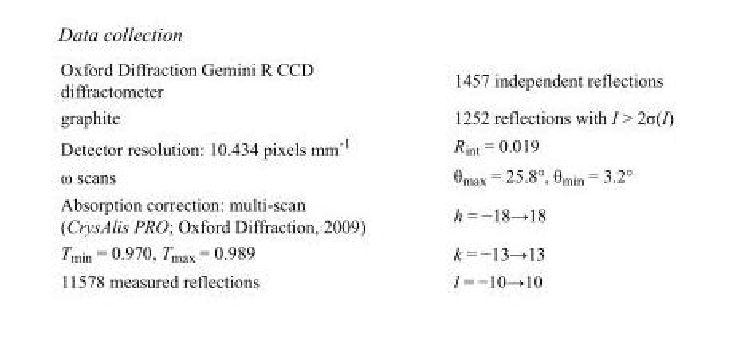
<table><tbody><tr><td>Oxford Diffraction Gemini R CCD diffractometer</td><td>1457 independent reflections</td></tr><tr><td>graphite</td><td>1252 reflections with I &gt; 2σ(I)</td></tr><tr><td>Detector resolution: 10.434 pixels mm<sup>-1</sup></td><td>R<sub>int</sub> = 0.019</td></tr><tr><td>ω scans</td><td>θ<sub>max</sub> = 25.8°, θ<sub>min</sub> = 3.2°</td></tr><tr><td>Absorption correction: multi-scan (CrysAlis PRO; Oxford Diffraction, 2009)</td><td>h = −18→18</td></tr><tr><td>T<sub>min</sub> = 0.970, T<sub>max</sub> = 0.989</td><td>k = −13→13</td></tr><tr><td>11578 measured reflections</td><td>l = −10→10</td></tr></tbody></table>